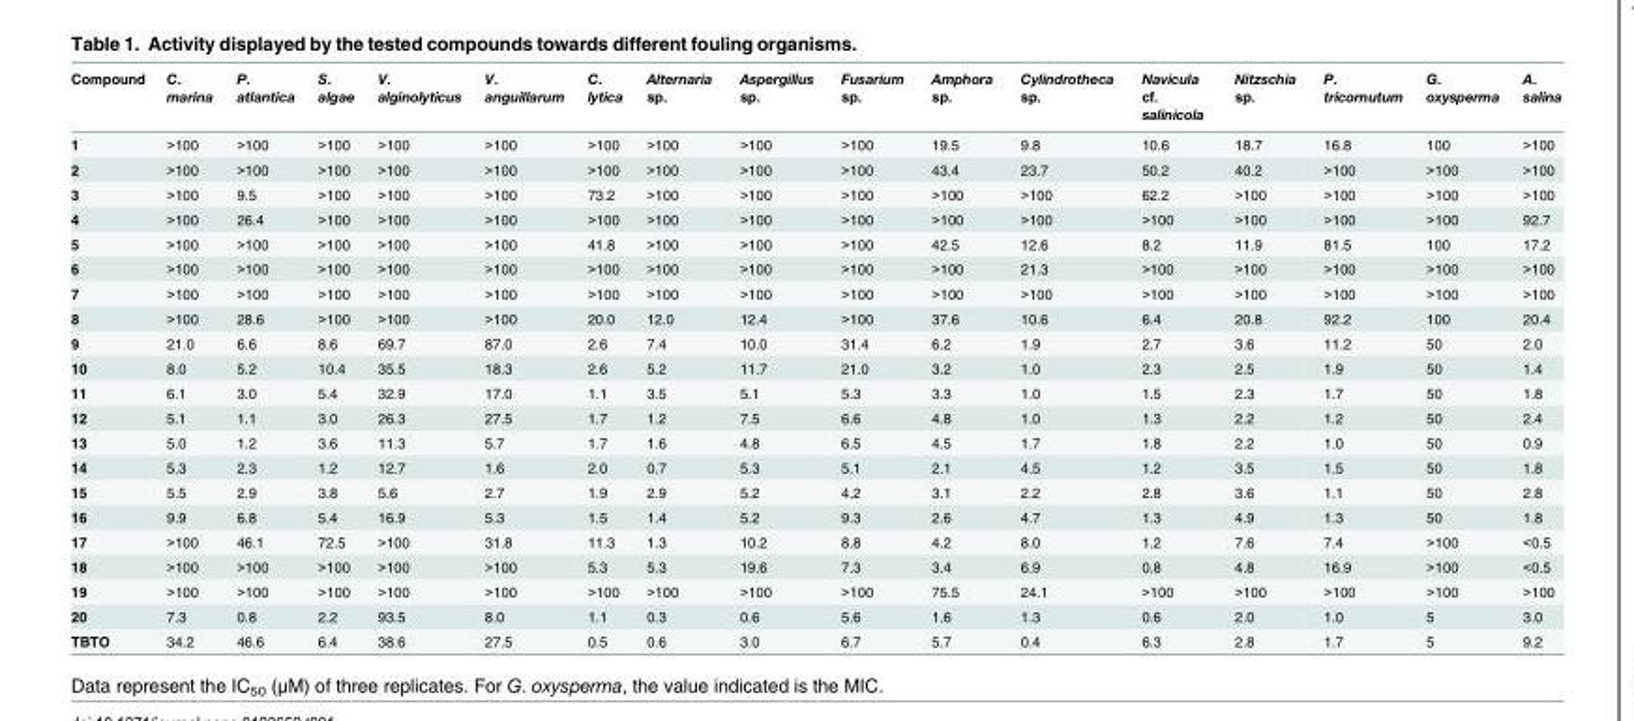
<table><thead><tr><td>Compound</td><td>C. marina</td><td>P. atlantica</td><td>S. algae</td><td>V. alginolyticus</td><td>V. anguillarum</td><td>C. lytica</td><td>Alternaria sp.</td><td>Aspergillus sp.</td><td>Fusarium sp.</td><td>Amphora sp.</td><td>Cylindrotheca sp.</td><td>Navicula cf. salinicola</td><td>Nitzschia sp.</td><td>P. tricornutum</td><td>G. oxysperma</td><td>A. salina</td></tr></thead><tbody><tr><td>1</td><td>&gt;100</td><td>&gt;100</td><td>&gt;100</td><td>&gt;100</td><td>&gt;100</td><td>&gt;100</td><td>&gt;100</td><td>&gt;100</td><td>&gt;100</td><td>19.5</td><td>9.8</td><td>10.6</td><td>18.7</td><td>16.8</td><td>100</td><td>&gt;100</td></tr><tr><td>2</td><td>&gt;100</td><td>&gt;100</td><td>&gt;100</td><td>&gt;100</td><td>&gt;100</td><td>&gt;100</td><td>&gt;100</td><td>&gt;100</td><td>&gt;100</td><td>43.4</td><td>23.7</td><td>50.2</td><td>40.2</td><td>&gt;100</td><td>&gt;100</td><td>&gt;100</td></tr><tr><td>3</td><td>&gt;100</td><td>9.5</td><td>&gt;100</td><td>&gt;100</td><td>&gt;100</td><td>73.2</td><td>&gt;100</td><td>&gt;100</td><td>&gt;100</td><td>&gt;100</td><td>&gt;100</td><td>62.2</td><td>&gt;100</td><td>&gt;100</td><td>&gt;100</td><td>&gt;100</td></tr><tr><td>4</td><td>&gt;100</td><td>26.4</td><td>&gt;100</td><td>&gt;100</td><td>&gt;100</td><td>&gt;100</td><td>&gt;100</td><td>&gt;100</td><td>&gt;100</td><td>&gt;100</td><td>&gt;100</td><td>&gt;100</td><td>&gt;100</td><td>&gt;100</td><td>&gt;100</td><td>92.7</td></tr><tr><td>5</td><td>&gt;100</td><td>&gt;100</td><td>&gt;100</td><td>&gt;100</td><td>&gt;100</td><td>41.8</td><td>&gt;100</td><td>&gt;100</td><td>&gt;100</td><td>42.5</td><td>12.6</td><td>8.2</td><td>11.9</td><td>81.5</td><td>100</td><td>17.2</td></tr><tr><td>6</td><td>&gt;100</td><td>&gt;100</td><td>&gt;100</td><td>&gt;100</td><td>&gt;100</td><td>&gt;100</td><td>&gt;100</td><td>&gt;100</td><td>&gt;100</td><td>&gt;100</td><td>21.3</td><td>&gt;100</td><td>&gt;100</td><td>&gt;100</td><td>&gt;100</td><td>&gt;100</td></tr><tr><td>7</td><td>&gt;100</td><td>&gt;100</td><td>&gt;100</td><td>&gt;100</td><td>&gt;100</td><td>&gt;100</td><td>&gt;100</td><td>&gt;100</td><td>&gt;100</td><td>&gt;100</td><td>&gt;100</td><td>&gt;100</td><td>&gt;100</td><td>&gt;100</td><td>&gt;100</td><td>&gt;100</td></tr><tr><td>8</td><td>&gt;100</td><td>28.6</td><td>&gt;100</td><td>&gt;100</td><td>&gt;100</td><td>20.0</td><td>12.0</td><td>12.4</td><td>&gt;100</td><td>37.6</td><td>10.6</td><td>6.4</td><td>20.8</td><td>92.2</td><td>100</td><td>20.4</td></tr><tr><td>9</td><td>21.0</td><td>6.6</td><td>8.6</td><td>69.7</td><td>87.0</td><td>2.6</td><td>7.4</td><td>10.0</td><td>31.4</td><td>6.2</td><td>1.9</td><td>2.7</td><td>3.6</td><td>11.2</td><td>50</td><td>2.0</td></tr><tr><td>10</td><td>8.0</td><td>5.2</td><td>10.4</td><td>35.5</td><td>18.3</td><td>2.6</td><td>5.2</td><td>11.7</td><td>21.0</td><td>3.2</td><td>1.0</td><td>2.3</td><td>2.5</td><td>1.9</td><td>50</td><td>1.4</td></tr><tr><td>11</td><td>6.1</td><td>3.0</td><td>5.4</td><td>32.9</td><td>17.0</td><td>1.1</td><td>3.5</td><td>5.1</td><td>5.3</td><td>3.3</td><td>1.0</td><td>1.5</td><td>2.3</td><td>1.7</td><td>50</td><td>1.8</td></tr><tr><td>12</td><td>5.1</td><td>1.1</td><td>3.0</td><td>26.3</td><td>27.5</td><td>1.7</td><td>1.2</td><td>7.5</td><td>6.6</td><td>4.8</td><td>1.0</td><td>1.3</td><td>2.2</td><td>1.2</td><td>50</td><td>2.4</td></tr><tr><td>13</td><td>5.0</td><td>1.2</td><td>3.6</td><td>11.3</td><td>5.7</td><td>1.7</td><td>1.6</td><td>4.8</td><td>6.5</td><td>4.5</td><td>1.7</td><td>1.8</td><td>2.2</td><td>1.0</td><td>50</td><td>0.9</td></tr><tr><td>14</td><td>5.3</td><td>2.3</td><td>1.2</td><td>12.7</td><td>1.6</td><td>2.0</td><td>0.7</td><td>5.3</td><td>5.1</td><td>2.1</td><td>4.5</td><td>1.2</td><td>3.5</td><td>1.5</td><td>50</td><td>1.8</td></tr><tr><td>15</td><td>5.5</td><td>2.9</td><td>3.8</td><td>5.6</td><td>2.7</td><td>1.9</td><td>2.9</td><td>5.2</td><td>4.2</td><td>3.1</td><td>2.2</td><td>2.8</td><td>3.6</td><td>1.1</td><td>50</td><td>2.8</td></tr><tr><td>16</td><td>9.9</td><td>6.8</td><td>5.4</td><td>16.9</td><td>5.3</td><td>1.5</td><td>1.4</td><td>5.2</td><td>9.3</td><td>2.6</td><td>4.7</td><td>1.3</td><td>4.9</td><td>1.3</td><td>50</td><td>1.8</td></tr><tr><td>17</td><td>&gt;100</td><td>46.1</td><td>72.5</td><td>&gt;100</td><td>31.8</td><td>11.3</td><td>1.3</td><td>10.2</td><td>8.8</td><td>4.2</td><td>8.0</td><td>1.2</td><td>7.6</td><td>7.4</td><td>&gt;100</td><td>&lt;0.5</td></tr><tr><td>18</td><td>&gt;100</td><td>&gt;100</td><td>&gt;100</td><td>&gt;100</td><td>&gt;100</td><td>5.3</td><td>5.3</td><td>19.6</td><td>7.3</td><td>3.4</td><td>6.9</td><td>0.8</td><td>4.8</td><td>16.9</td><td>&gt;100</td><td>&lt;0.5</td></tr><tr><td>19</td><td>&gt;100</td><td>&gt;100</td><td>&gt;100</td><td>&gt;100</td><td>&gt;100</td><td>&gt;100</td><td>&gt;100</td><td>&gt;100</td><td>&gt;100</td><td>75.5</td><td>24.1</td><td>&gt;100</td><td>&gt;100</td><td>&gt;100</td><td>&gt;100</td><td>&gt;100</td></tr><tr><td>20</td><td>7.3</td><td>0.8</td><td>2.2</td><td>93.5</td><td>8.0</td><td>1.1</td><td>0.3</td><td>0.6</td><td>5.6</td><td>1.6</td><td>1.3</td><td>0.6</td><td>2.0</td><td>1.0</td><td>5</td><td>3.0</td></tr><tr><td>TBTO</td><td>34.2</td><td>46.6</td><td>6.4</td><td>38.6</td><td>27.5</td><td>0.5</td><td>0.6</td><td>3.0</td><td>6.7</td><td>5.7</td><td>0.4</td><td>6.3</td><td>2.8</td><td>1.7</td><td>5</td><td>9.2</td></tr></tbody></table>